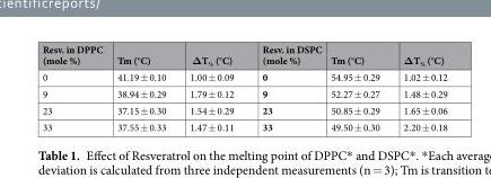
<table><thead><tr><td>Resv. in DPPC (mole %)</td><td>Tm (°C)</td><td>ΔT<sub>½</sub> (°C)</td><td>Resv. in DSPC (mole %)</td><td>Tm (°C)</td><td>ΔT<sub>½</sub> (°C)</td></tr></thead><tbody><tr><td>0</td><td>41.19 ± 0.10</td><td>1.00 ± 0.09</td><td>0</td><td>54.95 ± 0.29</td><td>1.02 ± 0.12</td></tr><tr><td>9</td><td>38.94 ± 0.29</td><td>1.79 ± 0.12</td><td>9</td><td>52.27 ± 0.27</td><td>1.48 ± 0.29</td></tr><tr><td>23</td><td>37.15 ± 0.30</td><td>1.54 ± 0.29</td><td>23</td><td>50.85 ± 0.29</td><td>1.65 ± 0.06</td></tr><tr><td>33</td><td>37.55 ± 0.33</td><td>1.47 ± 0.11</td><td>33</td><td>49.50 ± 0.30</td><td>2.20 ± 0.18</td></tr></tbody></table>